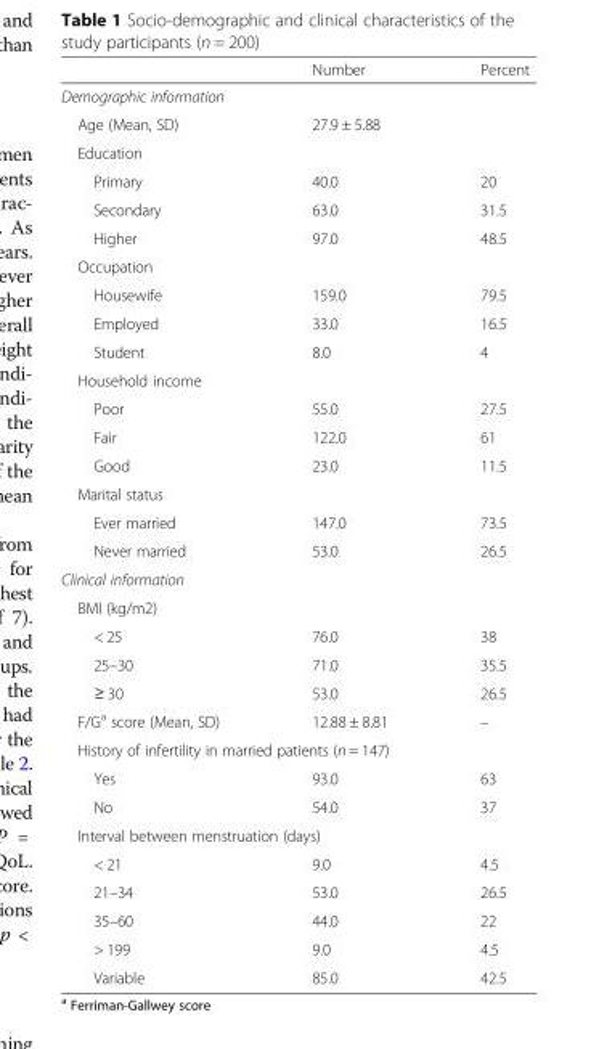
<table><thead><tr><td></td><td>Number</td><td>Percent</td></tr></thead><tbody><tr><td colspan="3">Demographic information</td></tr><tr><td>Age (Mean, SD)</td><td>27.9 ± 5.88</td><td></td></tr><tr><td colspan="3">Education</td></tr><tr><td>Primary</td><td>40.0</td><td>20</td></tr><tr><td>Secondary</td><td>63.0</td><td>31.5</td></tr><tr><td>Higher</td><td>97.0</td><td>48.5</td></tr><tr><td colspan="3">Occupation</td></tr><tr><td>Housewife</td><td>159.0</td><td>79.5</td></tr><tr><td>Employed</td><td>33.0</td><td>16.5</td></tr><tr><td>Student</td><td>8.0</td><td>4</td></tr><tr><td colspan="3">Household income</td></tr><tr><td>Poor</td><td>55.0</td><td>27.5</td></tr><tr><td>Fair</td><td>122.0</td><td>61</td></tr><tr><td>Good</td><td>23.0</td><td>11.5</td></tr><tr><td colspan="3">Marital status</td></tr><tr><td>Ever married</td><td>147.0</td><td>73.5</td></tr><tr><td>Never married</td><td>53.0</td><td>26.5</td></tr><tr><td colspan="3">Clinical information</td></tr><tr><td colspan="3">BMI (kg/m2)</td></tr><tr><td>&lt; 25</td><td>76.0</td><td>38</td></tr><tr><td>25–30</td><td>71.0</td><td>35.5</td></tr><tr><td>≥ 30</td><td>53.0</td><td>26.5</td></tr><tr><td>F/G<sup>a</sup> score (Mean, SD)</td><td>12.88 ± 8.81</td><td>–</td></tr><tr><td colspan="3">History of infertility in married patients (n = 147)</td></tr><tr><td>Yes</td><td>93.0</td><td>63</td></tr><tr><td>No</td><td>54.0</td><td>37</td></tr><tr><td colspan="3">Interval between menstruation (days)</td></tr><tr><td>&lt; 21</td><td>9.0</td><td>4.5</td></tr><tr><td>21–34</td><td>53.0</td><td>26.5</td></tr><tr><td>35–60</td><td>44.0</td><td>22</td></tr><tr><td>&gt; 199</td><td>9.0</td><td>4.5</td></tr><tr><td>Variable</td><td>85.0</td><td>42.5</td></tr></tbody></table>